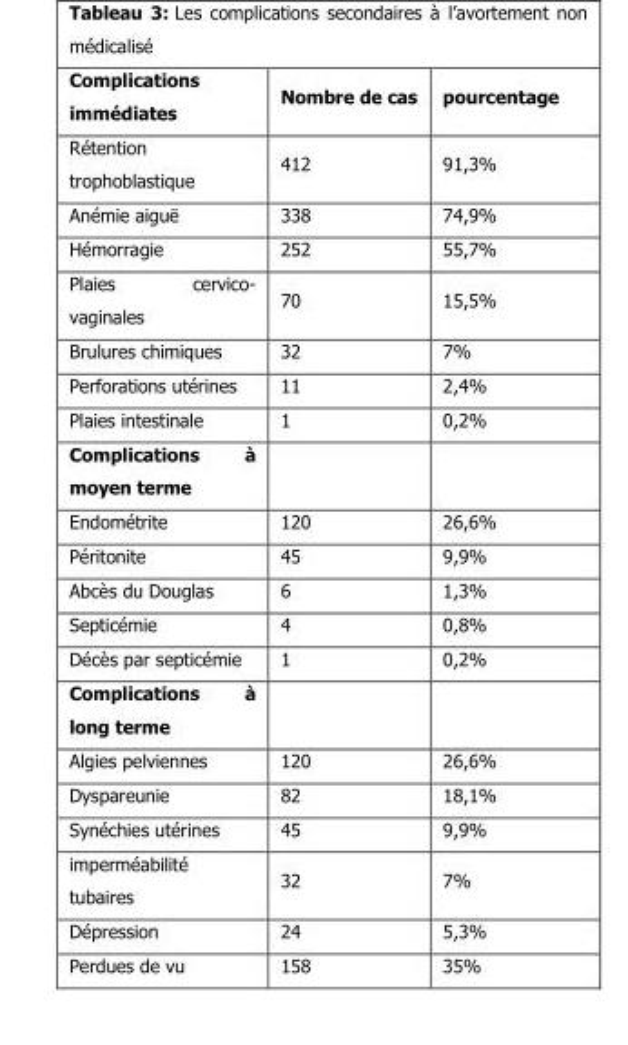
<table><thead><tr><td>Complications immédiates</td><td>Nombre de cas</td><td>pourcentage</td></tr></thead><tbody><tr><td>Rétention trophoblastique</td><td>412</td><td>91,3%</td></tr><tr><td>Anémie aiguë</td><td>338</td><td>74,9%</td></tr><tr><td>Hémorragie</td><td>252</td><td>55,7%</td></tr><tr><td>Plaies cervico- vaginales</td><td>70</td><td>15,5%</td></tr><tr><td>Brulures chimiques</td><td>32</td><td>7%</td></tr><tr><td>Perforations utérines</td><td>11</td><td>2,4%</td></tr><tr><td>Plaies intestinale</td><td>1</td><td>0,2%</td></tr><tr><td colspan="3">Complications à moyen terme</td></tr><tr><td>Endométrite</td><td>120</td><td>26,6%</td></tr><tr><td>Péritonite</td><td>45</td><td>9,9%</td></tr><tr><td>Abcès du Douglas</td><td>6</td><td>1,3%</td></tr><tr><td>Septicémie</td><td>4</td><td>0,8%</td></tr><tr><td>Décès par septicémie</td><td>1</td><td>0,2%</td></tr><tr><td colspan="3">Complications à long terme</td></tr><tr><td>Algies pelviennes</td><td>120</td><td>26,6%</td></tr><tr><td>Dyspareunie</td><td>82</td><td>18,1%</td></tr><tr><td>Synéchies utérines</td><td>45</td><td>9,9%</td></tr><tr><td>imperméabilité tubaires</td><td>32</td><td>7%</td></tr><tr><td>Dépression</td><td>24</td><td>5,3%</td></tr><tr><td>Perdues de vu</td><td>158</td><td>35%</td></tr></tbody></table>